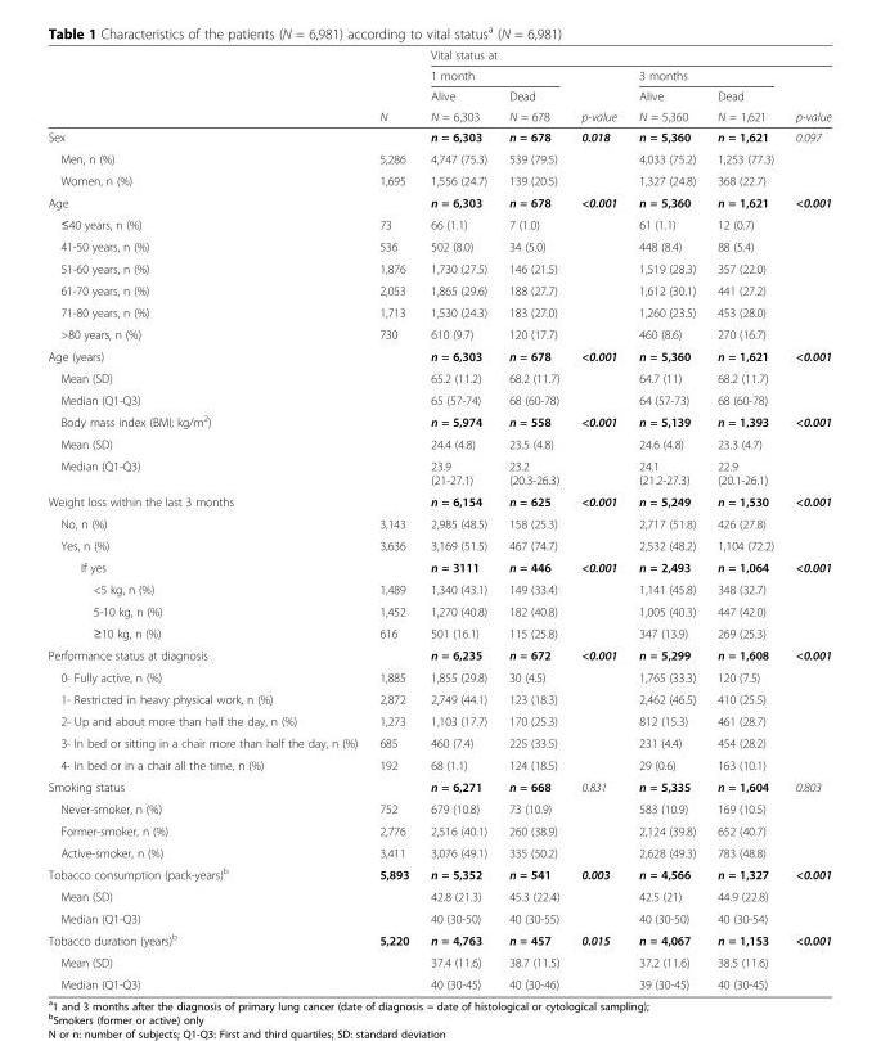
<table><thead><tr><td rowspan="4"></td><td rowspan="4">N</td><td colspan="6">Vital status at</td></tr><tr><td colspan="2">1 month</td><td rowspan="3">p-value</td><td colspan="2">3 months</td><td rowspan="3">p-value</td></tr><tr><td rowspan="2">Alive N = 6,303</td><td rowspan="2">Dead N = 678</td><td rowspan="2">Alive N = 5,360</td><td rowspan="2">Dead N = 1,621</td></tr><tr></tr></thead><tbody><tr><td>Sex</td><td></td><td>n = 6,303</td><td>n = 678</td><td>0.018</td><td>n = 5,360</td><td>n = 1,621</td><td>0.097</td></tr><tr><td>Men, n (%)</td><td>5,286</td><td>4,747 (75.3)</td><td>539 (79.5)</td><td></td><td>4,033 (75.2)</td><td>1,253 (77.3)</td><td></td></tr><tr><td>Women, n (%)</td><td>1,695</td><td>1,556 (24.7)</td><td>139 (20.5)</td><td></td><td>1,327 (24.8)</td><td>368 (22.7)</td><td></td></tr><tr><td>Age</td><td></td><td>n = 6,303</td><td>n = 678</td><td>&lt;0.001</td><td>n = 5,360</td><td>n = 1,621</td><td>&lt;0.001</td></tr><tr><td>≤40 years, n (%)</td><td>73</td><td>66 (1.1)</td><td>7 (1.0)</td><td></td><td>61 (1.1)</td><td>12 (0.7)</td><td></td></tr><tr><td>41-50 years, n (%)</td><td>536</td><td>502 (8.0)</td><td>34 (5.0)</td><td></td><td>448 (8.4)</td><td>88 (5.4)</td><td></td></tr><tr><td>51-60 years, n (%)</td><td>1,876</td><td>1,730 (27.5)</td><td>146 (21.5)</td><td></td><td>1,519 (28.3)</td><td>357 (22.0)</td><td></td></tr><tr><td>61-70 years, n (%)</td><td>2,053</td><td>1,865 (29.6)</td><td>188 (27.7)</td><td></td><td>1,612 (30.1)</td><td>441 (27.2)</td><td></td></tr><tr><td>71-80 years, n (%)</td><td>1,713</td><td>1,530 (24.3)</td><td>183 (27.0)</td><td></td><td>1,260 (23.5)</td><td>453 (28.0)</td><td></td></tr><tr><td>&gt;80 years, n (%)</td><td>730</td><td>610 (9.7)</td><td>120 (17.7)</td><td></td><td>460 (8.6)</td><td>270 (16.7)</td><td></td></tr><tr><td>Age (years)</td><td></td><td>n = 6,303</td><td>n = 678</td><td>&lt;0.001</td><td>n = 5,360</td><td>n = 1,621</td><td>&lt;0.001</td></tr><tr><td>Mean (SD)</td><td></td><td>65.2 (11.2)</td><td>68.2 (11.7)</td><td></td><td>64.7 (11)</td><td>68.2 (11.7)</td><td></td></tr><tr><td>Median (Q1-Q3)</td><td></td><td>65 (57-74)</td><td>68 (60-78)</td><td></td><td>64 (57-73)</td><td>68 (60-78)</td><td></td></tr><tr><td>Body mass index (BMI; kg/m<sup>2</sup>)</td><td></td><td>n = 5,974</td><td>n = 558</td><td>&lt;0.001</td><td>n = 5,139</td><td>n = 1,393</td><td>&lt;0.001</td></tr><tr><td>Mean (SD)</td><td></td><td>24.4 (4.8)</td><td>23.5 (4.8)</td><td></td><td>24.6 (4.8)</td><td>23.3 (4.7)</td><td></td></tr><tr><td>Median (Q1-Q3)</td><td></td><td>23.9 (21-27.1)</td><td>23.2 (20.3-26.3)</td><td></td><td>24.1 (21.2-27.3)</td><td>22.9 (20.1-26.1)</td><td></td></tr><tr><td>Weight loss within the last 3 months</td><td></td><td>n = 6,154</td><td>n = 625</td><td>&lt;0.001</td><td>n = 5,249</td><td>n = 1,530</td><td>&lt;0.001</td></tr><tr><td>No, n (%)</td><td>3,143</td><td>2,985 (48.5)</td><td>158 (25.3)</td><td></td><td>2,717 (51.8)</td><td>426 (27.8)</td><td></td></tr><tr><td>Yes, n (%)</td><td>3,636</td><td>3,169 (51.5)</td><td>467 (74.7)</td><td></td><td>2,532 (48.2)</td><td>1,104 (72.2)</td><td></td></tr><tr><td>If yes</td><td></td><td>n = 3111</td><td>n = 446</td><td>&lt;0.001</td><td>n = 2,493</td><td>n = 1,064</td><td>&lt;0.001</td></tr><tr><td>&lt;5 kg, n (%)</td><td>1,489</td><td>1,340 (43.1)</td><td>149 (33.4)</td><td></td><td>1,141 (45.8)</td><td>348 (32.7)</td><td></td></tr><tr><td>5-10 kg, n (%)</td><td>1,452</td><td>1,270 (40.8)</td><td>182 (40.8)</td><td></td><td>1,005 (40.3)</td><td>447 (42.0)</td><td></td></tr><tr><td>≥10 kg, n (%)</td><td>616</td><td>501 (16.1)</td><td>115 (25.8)</td><td></td><td>347 (13.9)</td><td>269 (25.3)</td><td></td></tr><tr><td>Performance status at diagnosis</td><td></td><td>n = 6,235</td><td>n = 672</td><td>&lt;0.001</td><td>n = 5,299</td><td>n = 1,608</td><td>&lt;0.001</td></tr><tr><td>0- Fully active, n (%)</td><td>1,885</td><td>1,855 (29.8)</td><td>30 (4.5)</td><td></td><td>1,765 (33.3)</td><td>120 (7.5)</td><td></td></tr><tr><td>1- Restricted in heavy physical work, n (%)</td><td>2,872</td><td>2,749 (44.1)</td><td>123 (18.3)</td><td></td><td>2,462 (46.5)</td><td>410 (25.5)</td><td></td></tr><tr><td>2- Up and about more than half the day, n (%)</td><td>1,273</td><td>1,103 (17.7)</td><td>170 (25.3)</td><td></td><td>812 (15.3)</td><td>461 (28.7)</td><td></td></tr><tr><td>3- In bed or sitting in a chair more than half the day, n (%)</td><td>685</td><td>460 (7.4)</td><td>225 (33.5)</td><td></td><td>231 (4.4)</td><td>454 (28.2)</td><td></td></tr><tr><td>4- In bed or in a chair all the time, n (%)</td><td>192</td><td>68 (1.1)</td><td>124 (18.5)</td><td></td><td>29 (0.6)</td><td>163 (10.1)</td><td></td></tr><tr><td>Smoking status</td><td></td><td>n = 6,271</td><td>n = 668</td><td>0.831</td><td>n = 5,335</td><td>n = 1,604</td><td>0.803</td></tr><tr><td>Never-smoker, n (%)</td><td>752</td><td>679 (10.8)</td><td>73 (10.9)</td><td></td><td>583 (10.9)</td><td>169 (10.5)</td><td></td></tr><tr><td>Former-smoker, n (%)</td><td>2,776</td><td>2,516 (40.1)</td><td>260 (38.9)</td><td></td><td>2,124 (39.8)</td><td>652 (40.7)</td><td></td></tr><tr><td>Active-smoker, n (%)</td><td>3,411</td><td>3,076 (49.1)</td><td>335 (50.2)</td><td></td><td>2,628 (49.3)</td><td>783 (48.8)</td><td></td></tr><tr><td>Tobacco consumption (pack-years)<sup>b</sup></td><td>5,893</td><td>n = 5,352</td><td>n = 541</td><td>0.003</td><td>n = 4,566</td><td>n = 1,327</td><td>&lt;0.001</td></tr><tr><td>Mean (SD)</td><td></td><td>42.8 (21.3)</td><td>45.3 (22.4)</td><td></td><td>42.5 (21)</td><td>44.9 (22.8)</td><td></td></tr><tr><td>Median (Q1-Q3)</td><td></td><td>40 (30-50)</td><td>40 (30-55)</td><td></td><td>40 (30-50)</td><td>40 (30-54)</td><td></td></tr><tr><td>Tobacco duration (years)<sup>b</sup></td><td>5,220</td><td>n = 4,763</td><td>n = 457</td><td>0.015</td><td>n = 4,067</td><td>n = 1,153</td><td>&lt;0.001</td></tr><tr><td>Mean (SD)</td><td></td><td>37.4 (11.6)</td><td>38.7 (11.5)</td><td></td><td>37.2 (11.6)</td><td>38.5 (11.6)</td><td></td></tr><tr><td>Median (Q1-Q3)</td><td></td><td>40 (30-45)</td><td>40 (30-46)</td><td></td><td>39 (30-45)</td><td>40 (30-45)</td><td></td></tr></tbody></table>